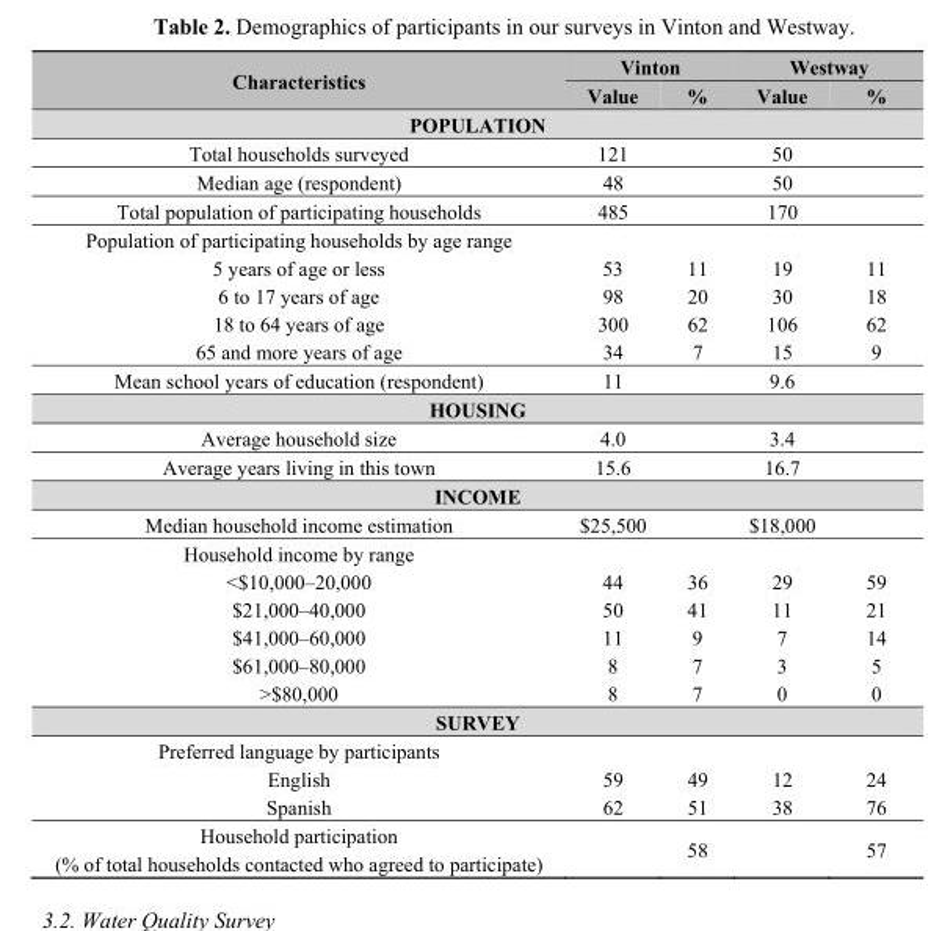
<table><thead><tr><td rowspan="2">Characteristics</td><td colspan="2">Vinton</td><td colspan="2">Westway</td></tr><tr><td>Value</td><td>%</td><td>Value</td><td>%</td></tr></thead><tbody><tr><td colspan="5">POPULATION</td></tr><tr><td>Total households surveyed</td><td>121</td><td></td><td>50</td><td></td></tr><tr><td>Median age (respondent)</td><td>48</td><td></td><td>50</td><td></td></tr><tr><td>Total population of participating households</td><td>485</td><td></td><td>170</td><td></td></tr><tr><td colspan="5">Population of participating households by age range</td></tr><tr><td>5 years of age or less</td><td>53</td><td>11</td><td>19</td><td>11</td></tr><tr><td>6 to 17 years of age</td><td>98</td><td>20</td><td>30</td><td>18</td></tr><tr><td>18 to 64 years of age</td><td>300</td><td>62</td><td>106</td><td>62</td></tr><tr><td>65 and more years of age</td><td>34</td><td>7</td><td>15</td><td>9</td></tr><tr><td>Mean school years of education (respondent)</td><td>11</td><td></td><td>9.6</td><td></td></tr><tr><td colspan="5">HOUSING</td></tr><tr><td>Average household size</td><td>4.0</td><td></td><td>3.4</td><td></td></tr><tr><td>Average years living in this town</td><td>15.6</td><td></td><td>16.7</td><td></td></tr><tr><td colspan="5">INCOME</td></tr><tr><td>Median household income estimation</td><td>$25,500</td><td></td><td>$18,000</td><td></td></tr><tr><td colspan="5">Household income by range</td></tr><tr><td>&lt;$10,000–20,000</td><td>44</td><td>36</td><td>29</td><td>59</td></tr><tr><td>$21,000–40,000</td><td>50</td><td>41</td><td>11</td><td>21</td></tr><tr><td>$41,000–60,000</td><td>11</td><td>9</td><td>7</td><td>14</td></tr><tr><td>$61,000–80,000</td><td>8</td><td>7</td><td>3</td><td>5</td></tr><tr><td>&gt;$80,000</td><td>8</td><td>7</td><td>0</td><td>0</td></tr><tr><td colspan="5">SURVEY</td></tr><tr><td colspan="5">Preferred language by participants</td></tr><tr><td>English</td><td>59</td><td>49</td><td>12</td><td>24</td></tr><tr><td>Spanish</td><td>62</td><td>51</td><td>38</td><td>76</td></tr><tr><td>Household participation (% of total households contacted who agreed to participate)</td><td></td><td>58</td><td></td><td>57</td></tr></tbody></table>